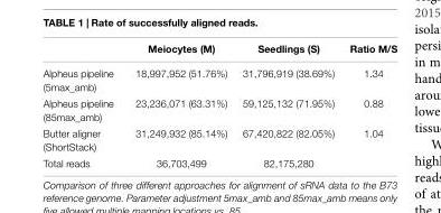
<table><thead><tr><td></td><td>Meiocytes (M)</td><td>Seedlings (S)</td><td>Ratio M/S</td></tr></thead><tbody><tr><td>Alpheus pipeline (5max_amb)</td><td>18,997,952 (51.76%)</td><td>31,796,919 (38.69%)</td><td>1.34</td></tr><tr><td>Alpheus pipeline (85max_amb)</td><td>23,236,071 (63.31%)</td><td>59,125,132 (71.95%)</td><td>0.88</td></tr><tr><td>Butter aligner (ShortStack)</td><td>31,249,932 (85.14%)</td><td>67,420,822 (82.05%)</td><td>1.04</td></tr><tr><td>Total reads</td><td>36,703,499</td><td>82,175,280</td><td></td></tr></tbody></table>